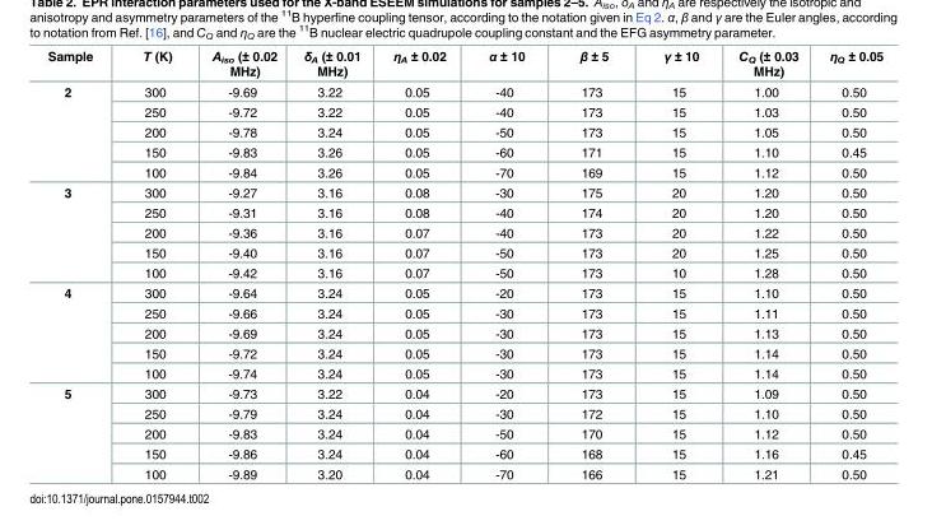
<table><thead><tr><td>Sample</td><td>T (K)</td><td>A<sub>iso</sub> (± 0.02 MHz)</td><td>δ<sub>A</sub> (± 0.01 MHz)</td><td>η<sub>A</sub> ± 0.02</td><td>α ± 10</td><td>β ± 5</td><td>γ ± 10</td><td>C<sub>Q</sub> (± 0.03 MHz)</td><td>η<sub>Q</sub> ± 0.05</td></tr></thead><tbody><tr><td rowspan="5">2</td><td>300</td><td>-9.69</td><td>3.22</td><td>0.05</td><td>-40</td><td>173</td><td>15</td><td>1.00</td><td>0.50</td></tr><tr><td>250</td><td>-9.72</td><td>3.22</td><td>0.05</td><td>-40</td><td>173</td><td>15</td><td>1.03</td><td>0.50</td></tr><tr><td>200</td><td>-9.78</td><td>3.24</td><td>0.05</td><td>-50</td><td>173</td><td>15</td><td>1.05</td><td>0.50</td></tr><tr><td>150</td><td>-9.83</td><td>3.26</td><td>0.05</td><td>-60</td><td>171</td><td>15</td><td>1.10</td><td>0.45</td></tr><tr><td>100</td><td>-9.84</td><td>3.26</td><td>0.05</td><td>-70</td><td>169</td><td>15</td><td>1.12</td><td>0.50</td></tr><tr><td rowspan="5">3</td><td>300</td><td>-9.27</td><td>3.16</td><td>0.08</td><td>-30</td><td>175</td><td>20</td><td>1.20</td><td>0.50</td></tr><tr><td>250</td><td>-9.31</td><td>3.16</td><td>0.08</td><td>-40</td><td>174</td><td>20</td><td>1.20</td><td>0.50</td></tr><tr><td>200</td><td>-9.36</td><td>3.16</td><td>0.07</td><td>-40</td><td>173</td><td>20</td><td>1.22</td><td>0.50</td></tr><tr><td>150</td><td>-9.40</td><td>3.16</td><td>0.07</td><td>-50</td><td>173</td><td>20</td><td>1.25</td><td>0.50</td></tr><tr><td>100</td><td>-9.42</td><td>3.16</td><td>0.07</td><td>-50</td><td>173</td><td>10</td><td>1.28</td><td>0.50</td></tr><tr><td rowspan="5">4</td><td>300</td><td>-9.64</td><td>3.24</td><td>0.05</td><td>-20</td><td>173</td><td>15</td><td>1.10</td><td>0.50</td></tr><tr><td>250</td><td>-9.66</td><td>3.24</td><td>0.05</td><td>-30</td><td>173</td><td>15</td><td>1.11</td><td>0.50</td></tr><tr><td>200</td><td>-9.69</td><td>3.24</td><td>0.05</td><td>-30</td><td>173</td><td>15</td><td>1.13</td><td>0.50</td></tr><tr><td>150</td><td>-9.72</td><td>3.24</td><td>0.05</td><td>-30</td><td>173</td><td>15</td><td>1.14</td><td>0.50</td></tr><tr><td>100</td><td>-9.74</td><td>3.24</td><td>0.05</td><td>-30</td><td>173</td><td>15</td><td>1.14</td><td>0.50</td></tr><tr><td rowspan="5">5</td><td>300</td><td>-9.73</td><td>3.22</td><td>0.04</td><td>-20</td><td>173</td><td>15</td><td>1.09</td><td>0.50</td></tr><tr><td>250</td><td>-9.79</td><td>3.24</td><td>0.04</td><td>-30</td><td>172</td><td>15</td><td>1.10</td><td>0.50</td></tr><tr><td>200</td><td>-9.83</td><td>3.24</td><td>0.04</td><td>-50</td><td>170</td><td>15</td><td>1.12</td><td>0.50</td></tr><tr><td>150</td><td>-9.86</td><td>3.24</td><td>0.04</td><td>-60</td><td>168</td><td>15</td><td>1.16</td><td>0.45</td></tr><tr><td>100</td><td>-9.89</td><td>3.20</td><td>0.04</td><td>-70</td><td>166</td><td>15</td><td>1.21</td><td>0.50</td></tr></tbody></table>